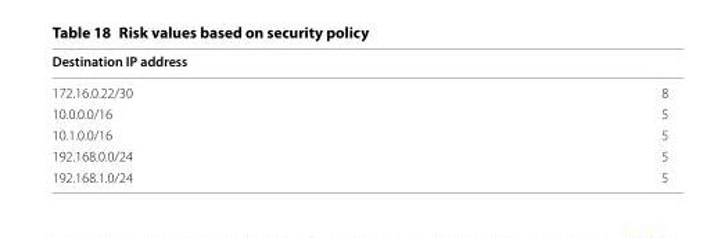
<table><thead><tr><td>Destination IP address</td><td></td></tr></thead><tbody><tr><td>172.16.0.22/30</td><td>8</td></tr><tr><td>10.0.0.0/16</td><td>5</td></tr><tr><td>10.1.0.0/16</td><td>5</td></tr><tr><td>192.168.0.0/24</td><td>5</td></tr><tr><td>192.168.1.0/24</td><td>5</td></tr></tbody></table>